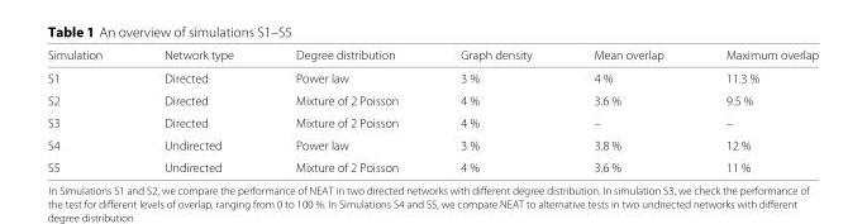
<table><thead><tr><td>Simulation</td><td>Network type</td><td>Degree distribution</td><td>Graph density</td><td>Mean overlap</td><td>Maximum overlap</td></tr></thead><tbody><tr><td>S1</td><td>Directed</td><td>Power law</td><td>3 %</td><td>4 %</td><td>11.3 %</td></tr><tr><td>S2</td><td>Directed</td><td>Mixture of 2 Poisson</td><td>4 %</td><td>3.6 %</td><td>9.5 %</td></tr><tr><td>S3</td><td>Directed</td><td>Mixture of 2 Poisson</td><td>4 %</td><td>–</td><td>–</td></tr><tr><td>S4</td><td>Undirected</td><td>Power law</td><td>3 %</td><td>3.8 %</td><td>12 %</td></tr><tr><td>S5</td><td>Undirected</td><td>Mixture of 2 Poisson</td><td>4 %</td><td>3.6 %</td><td>11 %</td></tr></tbody></table>